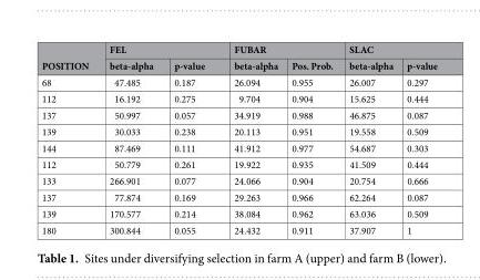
<table><thead><tr><td rowspan="2">POSITION</td><td colspan="2">FEL</td><td colspan="2">FUBAR</td><td colspan="2">SLAC</td></tr><tr><td>beta-alpha</td><td>p-value</td><td>beta-alpha</td><td>Pos. Prob.</td><td>beta-alpha</td><td>p-value</td></tr></thead><tbody><tr><td>68</td><td>47.485</td><td>0.187</td><td>26.094</td><td>0.955</td><td>26.007</td><td>0.297</td></tr><tr><td>112</td><td>16.192</td><td>0.275</td><td>9.704</td><td>0.904</td><td>15.625</td><td>0.444</td></tr><tr><td>137</td><td>50.997</td><td>0.057</td><td>34.919</td><td>0.988</td><td>46.875</td><td>0.087</td></tr><tr><td>139</td><td>30.033</td><td>0.238</td><td>20.113</td><td>0.951</td><td>19.558</td><td>0.509</td></tr><tr><td>144</td><td>87.469</td><td>0.111</td><td>41.912</td><td>0.977</td><td>54.687</td><td>0.303</td></tr><tr><td>112</td><td>50.779</td><td>0.261</td><td>19.922</td><td>0.935</td><td>41.509</td><td>0.444</td></tr><tr><td>133</td><td>266.901</td><td>0.077</td><td>24.066</td><td>0.904</td><td>20.754</td><td>0.666</td></tr><tr><td>137</td><td>77.874</td><td>0.169</td><td>29.263</td><td>0.966</td><td>62.264</td><td>0.087</td></tr><tr><td>139</td><td>170.577</td><td>0.214</td><td>38.084</td><td>0.962</td><td>63.036</td><td>0.509</td></tr><tr><td>180</td><td>300.844</td><td>0.055</td><td>24.432</td><td>0.911</td><td>37.907</td><td>1</td></tr></tbody></table>